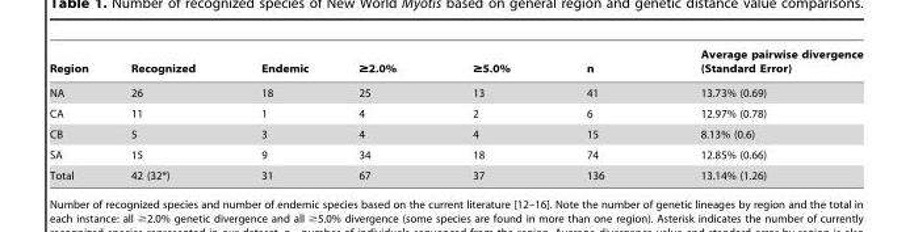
<table><thead><tr><td>Region</td><td>Recognized</td><td>Endemic</td><td>≥2.0%</td><td>≥5.0%</td><td>n</td><td>Average pairwise divergence (Standard Error)</td></tr></thead><tbody><tr><td>NA</td><td>26</td><td>18</td><td>25</td><td>13</td><td>41</td><td>13.73% (0.69)</td></tr><tr><td>CA</td><td>11</td><td>1</td><td>4</td><td>2</td><td>6</td><td>12.97% (0.78)</td></tr><tr><td>CB</td><td>5</td><td>3</td><td>4</td><td>4</td><td>15</td><td>8.13% (0.6)</td></tr><tr><td>SA</td><td>15</td><td>9</td><td>34</td><td>18</td><td>74</td><td>12.85% (0.66)</td></tr><tr><td>Total</td><td>42 (32*)</td><td>31</td><td>67</td><td>37</td><td>136</td><td>13.14% (1.26)</td></tr></tbody></table>